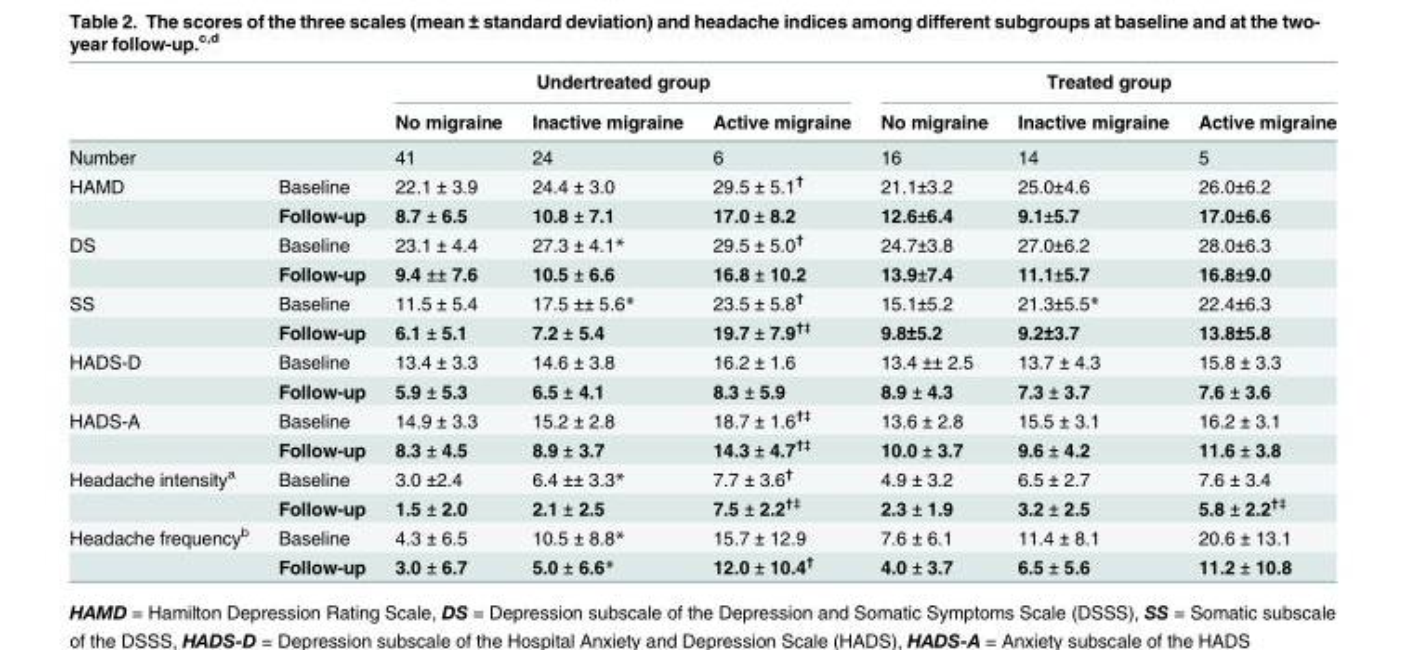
<table><thead><tr><td rowspan="2"></td><td rowspan="2"></td><td colspan="3">Undertreated group</td><td colspan="3">Treated group</td></tr><tr><td>No migraine</td><td>Inactive migraine</td><td>Active migraine</td><td>No migraine</td><td>Inactive migraine</td><td>Active migraine</td></tr></thead><tbody><tr><td>Number</td><td></td><td>41</td><td>24</td><td>6</td><td>16</td><td>14</td><td>5</td></tr><tr><td rowspan="2">HAMD</td><td>Baseline</td><td>22.1 ± 3.9</td><td>24.4 ± 3.0</td><td>29.5 ± 5.1<sup>†</sup></td><td>21.1±3.2</td><td>25.0±4.6</td><td>26.0±6.2</td></tr><tr><td>Follow-up</td><td>8.7 ± 6.5</td><td>10.8 ± 7.1</td><td>17.0 ± 8.2</td><td>12.6±6.4</td><td>9.1±5.7</td><td>17.0±6.6</td></tr><tr><td rowspan="2">DS</td><td>Baseline</td><td>23.1 ± 4.4</td><td>27.3 ± 4.1*</td><td>29.5 ± 5.0<sup>†</sup></td><td>24.7±3.8</td><td>27.0±6.2</td><td>28.0±6.3</td></tr><tr><td>Follow-up</td><td>9.4 ±± 7.6</td><td>10.5 ± 6.6</td><td>16.8 ± 10.2</td><td>13.9±7.4</td><td>11.1±5.7</td><td>16.8±9.0</td></tr><tr><td rowspan="2">SS</td><td>Baseline</td><td>11.5 ± 5.4</td><td>17.5 ±± 5.6*</td><td>23.5 ± 5.8<sup>†</sup></td><td>15.1±5.2</td><td>21.3±5.5*</td><td>22.4±6.3</td></tr><tr><td>Follow-up</td><td>6.1 ± 5.1</td><td>7.2 ± 5.4</td><td>19.7 ± 7.9<sup>†‡</sup></td><td>9.8±5.2</td><td>9.2±3.7</td><td>13.8±5.8</td></tr><tr><td rowspan="2">HADS-D</td><td>Baseline</td><td>13.4 ± 3.3</td><td>14.6 ± 3.8</td><td>16.2 ± 1.6</td><td>13.4 ±± 2.5</td><td>13.7 ± 4.3</td><td>15.8 ± 3.3</td></tr><tr><td>Follow-up</td><td>5.9 ± 5.3</td><td>6.5 ± 4.1</td><td>8.3 ± 5.9</td><td>8.9 ± 4.3</td><td>7.3 ± 3.7</td><td>7.6 ± 3.6</td></tr><tr><td rowspan="2">HADS-A</td><td>Baseline</td><td>14.9 ± 3.3</td><td>15.2 ± 2.8</td><td>18.7 ± 1.6<sup>†‡</sup></td><td>13.6 ± 2.8</td><td>15.5 ± 3.1</td><td>16.2 ± 3.1</td></tr><tr><td>Follow-up</td><td>8.3 ± 4.5</td><td>8.9 ± 3.7</td><td>14.3 ± 4.7<sup>†‡</sup></td><td>10.0 ± 3.7</td><td>9.6 ± 4.2</td><td>11.6 ± 3.8</td></tr><tr><td rowspan="2">Headache intensity<sup>a</sup></td><td>Baseline</td><td>3.0 ±2.4</td><td>6.4 ±± 3.3*</td><td>7.7 ± 3.6<sup>†</sup></td><td>4.9 ± 3.2</td><td>6.5 ± 2.7</td><td>7.6 ± 3.4</td></tr><tr><td>Follow-up</td><td>1.5 ± 2.0</td><td>2.1 ± 2.5</td><td>7.5 ± 2.2<sup>†‡</sup></td><td>2.3 ± 1.9</td><td>3.2 ± 2.5</td><td>5.8 ± 2.2<sup>†‡</sup></td></tr><tr><td rowspan="2">Headache frequency<sup>b</sup></td><td>Baseline</td><td>4.3 ± 6.5</td><td>10.5 ± 8.8*</td><td>15.7 ± 12.9</td><td>7.6 ± 6.1</td><td>11.4 ± 8.1</td><td>20.6 ± 13.1</td></tr><tr><td>Follow-up</td><td>3.0 ± 6.7</td><td>5.0 ± 6.6*</td><td>12.0 ± 10.4<sup>†</sup></td><td>4.0 ± 3.7</td><td>6.5 ± 5.6</td><td>11.2 ± 10.8</td></tr></tbody></table>